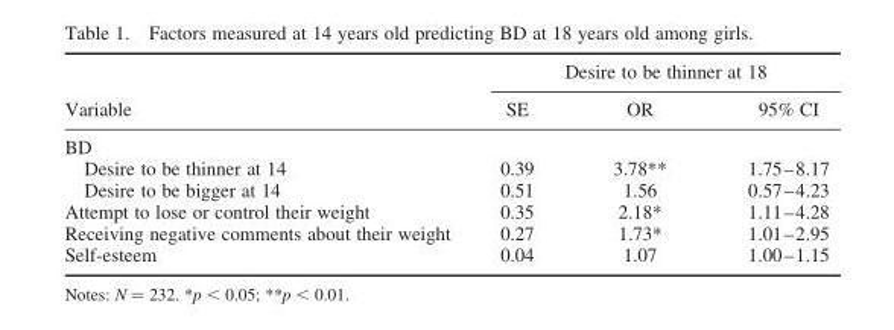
<table><thead><tr><td rowspan="2">Variable</td><td colspan="3">Desire to be thinner at 18</td></tr><tr><td>SE</td><td>OR</td><td>95% CI</td></tr></thead><tbody><tr><td colspan="4">BD</td></tr><tr><td>Desire to be thinner at 14</td><td>0.39</td><td>3.78**</td><td>1.75–8.17</td></tr><tr><td>Desire to be bigger at 14</td><td>0.51</td><td>1.56</td><td>0.57–4.23</td></tr><tr><td>Attempt to lose or control their weight</td><td>0.35</td><td>2.18*</td><td>1.11–4.28</td></tr><tr><td>Receiving negative comments about their weight</td><td>0.27</td><td>1.73*</td><td>1.01–2.95</td></tr><tr><td>Self-esteem</td><td>0.04</td><td>1.07</td><td>1.00–1.15</td></tr></tbody></table>